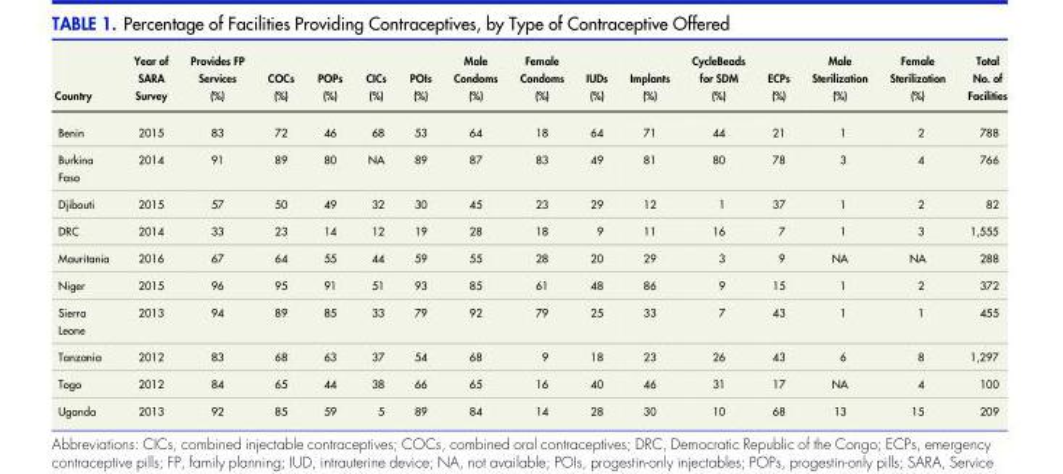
<table><thead><tr><td>Country</td><td>Year of SARA Survey</td><td>Provides FP Services (%)</td><td>COCs (%)</td><td>POPs (%)</td><td>CICs (%)</td><td>POIs (%)</td><td>Male Condoms (%)</td><td>Female Condoms (%)</td><td>IUDs (%)</td><td>Implants (%)</td><td>CycleBeads for SDM (%)</td><td>ECPs (%)</td><td>Male Sterilization (%)</td><td>Female Sterilization (%)</td><td>Total No. of Facilities</td></tr></thead><tbody><tr><td>Benin</td><td>2015</td><td>83</td><td>72</td><td>46</td><td>68</td><td>53</td><td>64</td><td>18</td><td>64</td><td>71</td><td>44</td><td>21</td><td>1</td><td>2</td><td>788</td></tr><tr><td>Burkina Faso</td><td>2014</td><td>91</td><td>89</td><td>80</td><td>NA</td><td>89</td><td>87</td><td>83</td><td>49</td><td>81</td><td>80</td><td>78</td><td>3</td><td>4</td><td>766</td></tr><tr><td>Djibouti</td><td>2015</td><td>57</td><td>50</td><td>49</td><td>32</td><td>30</td><td>45</td><td>23</td><td>29</td><td>12</td><td>1</td><td>37</td><td>1</td><td>2</td><td>82</td></tr><tr><td>DRC</td><td>2014</td><td>33</td><td>23</td><td>14</td><td>12</td><td>19</td><td>28</td><td>18</td><td>9</td><td>11</td><td>16</td><td>7</td><td>1</td><td>3</td><td>1,555</td></tr><tr><td>Mauritania</td><td>2016</td><td>67</td><td>64</td><td>55</td><td>44</td><td>59</td><td>55</td><td>28</td><td>20</td><td>29</td><td>3</td><td>9</td><td>NA</td><td>NA</td><td>288</td></tr><tr><td>Niger</td><td>2015</td><td>96</td><td>95</td><td>91</td><td>51</td><td>93</td><td>85</td><td>61</td><td>48</td><td>86</td><td>9</td><td>15</td><td>1</td><td>2</td><td>372</td></tr><tr><td>Sierra Leone</td><td>2013</td><td>94</td><td>89</td><td>85</td><td>33</td><td>79</td><td>92</td><td>79</td><td>25</td><td>33</td><td>7</td><td>43</td><td>1</td><td>1</td><td>455</td></tr><tr><td>Tanzania</td><td>2012</td><td>83</td><td>68</td><td>63</td><td>37</td><td>54</td><td>68</td><td>9</td><td>18</td><td>23</td><td>26</td><td>43</td><td>6</td><td>8</td><td>1,297</td></tr><tr><td>Togo</td><td>2012</td><td>84</td><td>65</td><td>44</td><td>38</td><td>66</td><td>65</td><td>16</td><td>40</td><td>46</td><td>31</td><td>17</td><td>NA</td><td>4</td><td>100</td></tr><tr><td>Uganda</td><td>2013</td><td>92</td><td>85</td><td>59</td><td>5</td><td>89</td><td>84</td><td>14</td><td>28</td><td>30</td><td>10</td><td>68</td><td>13</td><td>15</td><td>209</td></tr></tbody></table>